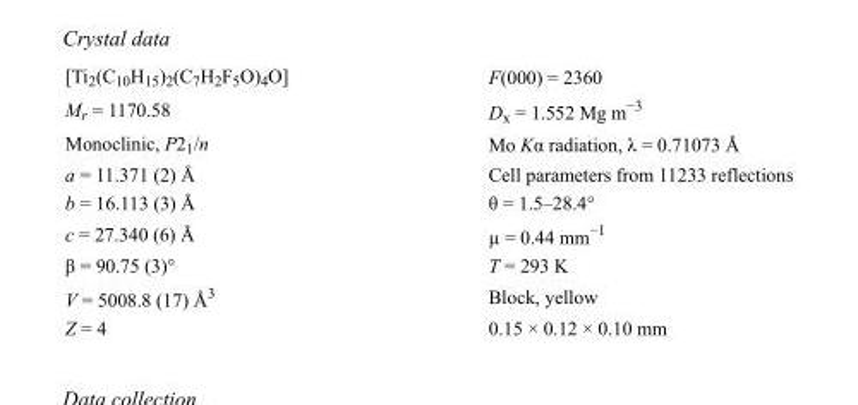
<table><tbody><tr><td>[Ti<sub>2</sub>(C<sub>10</sub>H<sub>15</sub>)<sub>2</sub>(C<sub>7</sub>H<sub>2</sub>F<sub>5</sub>O)<sub>4</sub>O]</td><td>F(000) = 2360</td></tr><tr><td>M<sub>r</sub> = 1170.58</td><td>D<sub>x</sub> = 1.552 Mg m<sup>−3</sup></td></tr><tr><td>Monoclinic, P2<sub>1</sub>/n</td><td>Mo Kα radiation, λ = 0.71073 Å</td></tr><tr><td>a = 11.371 (2) Å</td><td>Cell parameters from 11233 reflections</td></tr><tr><td>b = 16.113 (3) Å</td><td>θ = 1.5–28.4°</td></tr><tr><td>c = 27.340 (6) Å</td><td>µ = 0.44 mm<sup>−1</sup></td></tr><tr><td>β = 90.75 (3)°</td><td>T = 293 K</td></tr><tr><td>V = 5008.8 (17) Å<sup>3</sup></td><td>Block, yellow</td></tr><tr><td>Z = 4</td><td>0.15 × 0.12 × 0.10 mm</td></tr></tbody></table>